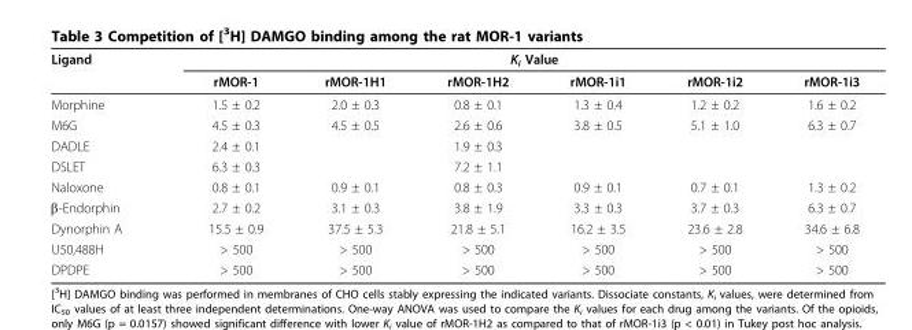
<table><thead><tr><td rowspan="2">Ligand</td><td colspan="6">K<sub>i</sub> Value</td></tr><tr><td>rMOR-1</td><td>rMOR-1H1</td><td>rMOR-1H2</td><td>rMOR-1i1</td><td>rMOR-1i2</td><td>rMOR-1i3</td></tr></thead><tbody><tr><td>Morphine</td><td>1.5 ± 0.2</td><td>2.0 ± 0.3</td><td>0.8 ± 0.1</td><td>1.3 ± 0.4</td><td>1.2 ± 0.2</td><td>1.6 ± 0.2</td></tr><tr><td>M6G</td><td>4.5 ± 0.3</td><td>4.5 ± 0.5</td><td>2.6 ± 0.6</td><td>3.8 ± 0.5</td><td>5.1 ± 1.0</td><td>6.3 ± 0.7</td></tr><tr><td>DADLE</td><td>2.4 ± 0.1</td><td></td><td>1.9 ± 0.3</td><td></td><td></td><td></td></tr><tr><td>DSLET</td><td>6.3 ± 0.3</td><td></td><td>7.2 ± 1.1</td><td></td><td></td><td></td></tr><tr><td>Naloxone</td><td>0.8 ± 0.1</td><td>0.9 ± 0.1</td><td>0.8 ± 0.3</td><td>0.9 ± 0.1</td><td>0.7 ± 0.1</td><td>1.3 ± 0.2</td></tr><tr><td>β-Endorphin</td><td>2.7 ± 0.2</td><td>3.1 ± 0.3</td><td>3.8 ± 1.9</td><td>3.3 ± 0.3</td><td>3.7 ± 0.3</td><td>6.3 ± 0.7</td></tr><tr><td>Dynorphin A</td><td>15.5 ± 0.9</td><td>37.5 ± 5.3</td><td>21.8 ± 5.1</td><td>16.2 ± 3.5</td><td>23.6 ± 2.8</td><td>34.6 ± 6.8</td></tr><tr><td>U50,488H</td><td>&gt; 500</td><td>&gt; 500</td><td>&gt; 500</td><td>&gt; 500</td><td>&gt; 500</td><td>&gt; 500</td></tr><tr><td>DPDPE</td><td>&gt; 500</td><td>&gt; 500</td><td>&gt; 500</td><td>&gt; 500</td><td>&gt; 500</td><td>&gt; 500</td></tr></tbody></table>